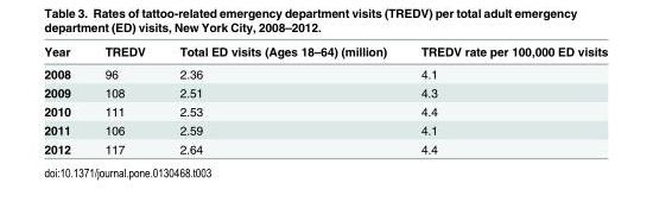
<table><thead><tr><td>Year</td><td>TREDV</td><td>Total ED visits (Ages 18–64) (million)</td><td>TREDV rate per 100,000 ED visits</td></tr></thead><tbody><tr><td>2008</td><td>96</td><td>2.36</td><td>4.1</td></tr><tr><td>2009</td><td>108</td><td>2.51</td><td>4.3</td></tr><tr><td>2010</td><td>111</td><td>2.53</td><td>4.4</td></tr><tr><td>2011</td><td>106</td><td>2.59</td><td>4.1</td></tr><tr><td>2012</td><td>117</td><td>2.64</td><td>4.4</td></tr></tbody></table>